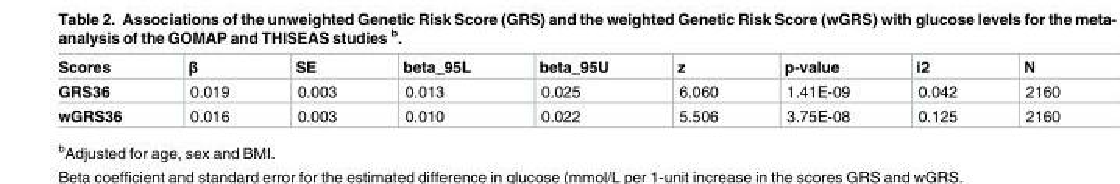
<table><thead><tr><td>Scores</td><td>β</td><td>SE</td><td>beta_95L</td><td>beta_95U</td><td>z</td><td>p-value</td><td>i2</td><td>N</td></tr></thead><tbody><tr><td>GRS36</td><td>0.019</td><td>0.003</td><td>0.013</td><td>0.025</td><td>6.060</td><td>1.41E-09</td><td>0.042</td><td>2160</td></tr><tr><td>wGRS36</td><td>0.016</td><td>0.003</td><td>0.010</td><td>0.022</td><td>5.506</td><td>3.75E-08</td><td>0.125</td><td>2160</td></tr></tbody></table>